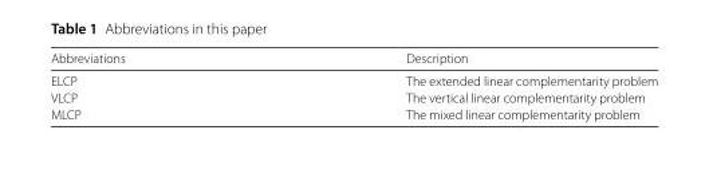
<table><thead><tr><td>Abbreviations</td><td>Description</td></tr></thead><tbody><tr><td>ELCP</td><td>The extended linear complementarity problem</td></tr><tr><td>VLCP</td><td>The vertical linear complementarity problem</td></tr><tr><td>MLCP</td><td>The mixed linear complementarity problem</td></tr></tbody></table>